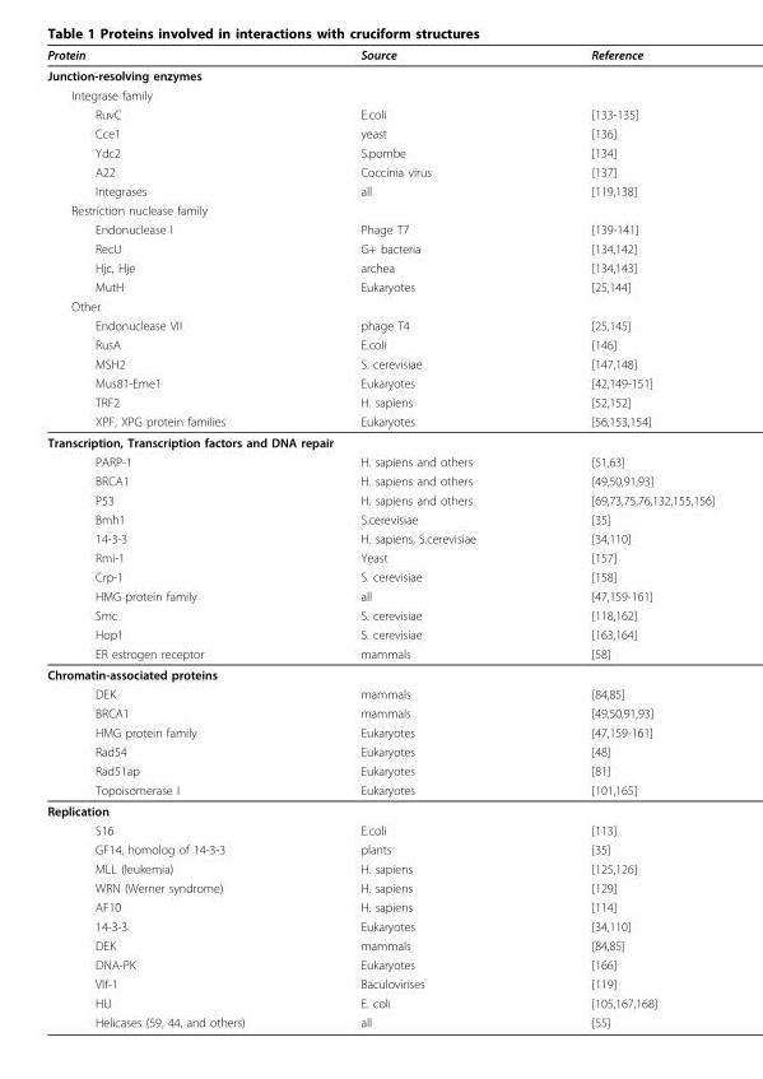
<table><thead><tr><td>Protein</td><td>Source</td><td>Reference</td></tr></thead><tbody><tr><td colspan="3">Junction-resolving enzymes</td></tr><tr><td colspan="3">Integrase family</td></tr><tr><td>RuvC</td><td>E.coli</td><td>[133-135]</td></tr><tr><td>Cce1</td><td>yeast</td><td>[136]</td></tr><tr><td>Ydc2</td><td>S.pombe</td><td>[134]</td></tr><tr><td>A22</td><td>Coccinia virus</td><td>[137]</td></tr><tr><td>Integrases</td><td>all</td><td>[119,138]</td></tr><tr><td colspan="3">Restriction nuclease family</td></tr><tr><td>Endonuclease I</td><td>Phage T7</td><td>[139-141]</td></tr><tr><td>RecU</td><td>G+ bacteria</td><td>[134,142]</td></tr><tr><td>Hjc, Hje</td><td>archea</td><td>[134,143]</td></tr><tr><td>MutH</td><td>Eukaryotes</td><td>[25,144]</td></tr><tr><td colspan="3">Other</td></tr><tr><td>Endonuclease VII</td><td>phage T4</td><td>[25,145]</td></tr><tr><td>RusA</td><td>E.coli</td><td>[146]</td></tr><tr><td>MSH2</td><td>S. cerevisiae</td><td>[147,148]</td></tr><tr><td>Mus81-Eme1</td><td>Eukaryotes</td><td>[42,149-151]</td></tr><tr><td>TRF2</td><td>H. sapiens</td><td>[52,152]</td></tr><tr><td>XPF, XPG protein families</td><td>Eukaryotes</td><td>[56,153,154]</td></tr><tr><td colspan="3">Transcription, Transcription factors and DNA repair</td></tr><tr><td>PARP-1</td><td>H. sapiens and others</td><td>[51,63]</td></tr><tr><td>BRCA1</td><td>H. sapiens and others</td><td>[49,50,91,93]</td></tr><tr><td>P53</td><td>H. sapiens and others</td><td>[69,73,75,76,132,155,156]</td></tr><tr><td>Bmh1</td><td>S.cerevisiae</td><td>[35]</td></tr><tr><td>14-3-3</td><td>H. sapiens, S.cerevisiae</td><td>[34,110]</td></tr><tr><td>Rmi-1</td><td>Yeast</td><td>[157]</td></tr><tr><td>Crp-1</td><td>S. cerevisiae</td><td>[158]</td></tr><tr><td>HMG protein family</td><td>all</td><td>[47,159-161]</td></tr><tr><td>Smc</td><td>S. cerevisiae</td><td>[118,162]</td></tr><tr><td>Hop1</td><td>S. cerevisiae</td><td>[163,164]</td></tr><tr><td>ER estrogen receptor</td><td>mammals</td><td>[58]</td></tr><tr><td colspan="3">Chromatin-associated proteins</td></tr><tr><td>DEK</td><td>mammals</td><td>[84,85]</td></tr><tr><td>BRCA1</td><td>mammals</td><td>[49,50,91,93]</td></tr><tr><td>HMG protein family</td><td>Eukaryotes</td><td>[47,159-161]</td></tr><tr><td>Rad54</td><td>Eukaryotes</td><td>[48]</td></tr><tr><td>Rad51ap</td><td>Eukaryotes</td><td>[81]</td></tr><tr><td>Topoisomerase I</td><td>Eukaryotes</td><td>[101,165]</td></tr><tr><td colspan="3">Replication</td></tr><tr><td>S16</td><td>E.coli</td><td>[113]</td></tr><tr><td>GF14, homolog of 14-3-3</td><td>plants</td><td>[35]</td></tr><tr><td>MLL (leukemia)</td><td>H. sapiens</td><td>[125,126]</td></tr><tr><td>WRN (Werner syndrome)</td><td>H. sapiens</td><td>[129]</td></tr><tr><td>AF10</td><td>H. sapiens</td><td>[114]</td></tr><tr><td>14-3-3</td><td>Eukaryotes</td><td>[34,110]</td></tr><tr><td>DEK</td><td>mammals</td><td>[84,85]</td></tr><tr><td>DNA-PK</td><td>Eukaryotes</td><td>[166]</td></tr><tr><td>Vlf-1</td><td>Baculovirises</td><td>[119]</td></tr><tr><td>HU</td><td>E. coli</td><td>[105,167,168]</td></tr><tr><td>Helicases (59, 44, and others)</td><td>all</td><td>[55]</td></tr></tbody></table>